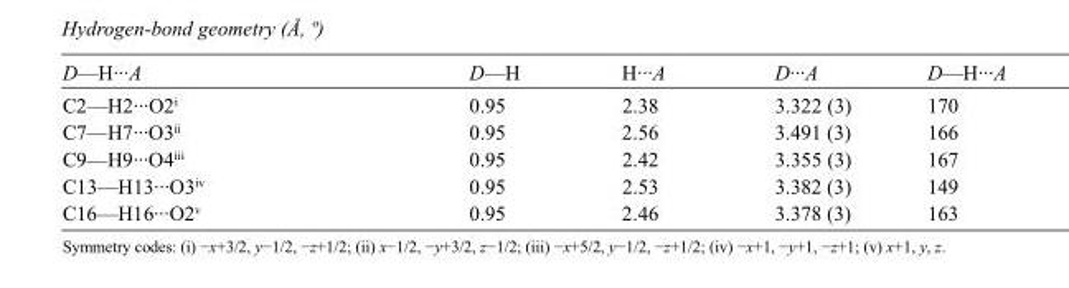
<table><tbody><tr><td>D—H···A</td><td>D—H</td><td>H···A</td><td>D···A</td><td>D—H···A</td></tr><tr><td>C2—H2···O2<sup>i</sup></td><td>0.95</td><td>2.38</td><td>3.322 (3)</td><td>170</td></tr><tr><td>C7—H7···O3<sup>ii</sup></td><td>0.95</td><td>2.56</td><td>3.491 (3)</td><td>166</td></tr><tr><td>C9—H9···O4<sup>iii</sup></td><td>0.95</td><td>2.42</td><td>3.355 (3)</td><td>167</td></tr><tr><td>C13—H13···O3<sup>iv</sup></td><td>0.95</td><td>2.53</td><td>3.382 (3)</td><td>149</td></tr><tr><td>C16—H16···O2<sup>v</sup></td><td>0.95</td><td>2.46</td><td>3.378 (3)</td><td>163</td></tr></tbody></table>